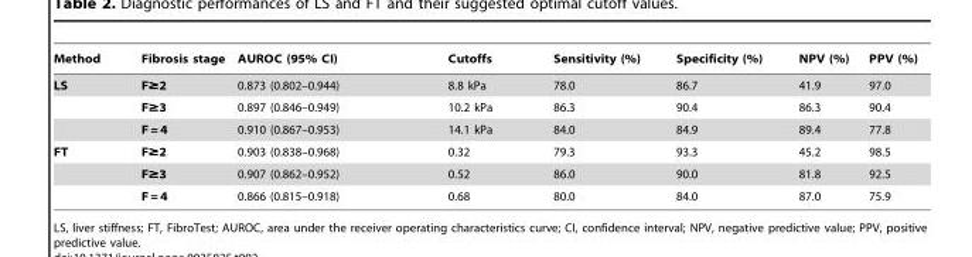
<table><thead><tr><td>Method</td><td>Fibrosis stage</td><td>AUROC (95% CI)</td><td>Cutoffs</td><td>Sensitivity (%)</td><td>Specificity (%)</td><td>NPV (%)</td><td>PPV (%)</td></tr></thead><tbody><tr><td rowspan="3">LS</td><td>F≥2</td><td>0.873 (0.802–0.944)</td><td>8.8 kPa</td><td>78.0</td><td>86.7</td><td>41.9</td><td>97.0</td></tr><tr><td>F≥3</td><td>0.897 (0.846–0.949)</td><td>10.2 kPa</td><td>86.3</td><td>90.4</td><td>86.3</td><td>90.4</td></tr><tr><td>F = 4</td><td>0.910 (0.867–0.953)</td><td>14.1 kPa</td><td>84.0</td><td>84.9</td><td>89.4</td><td>77.8</td></tr><tr><td rowspan="3">FT</td><td>F≥2</td><td>0.903 (0.838–0.968)</td><td>0.32</td><td>79.3</td><td>93.3</td><td>45.2</td><td>98.5</td></tr><tr><td>F≥3</td><td>0.907 (0.862–0.952)</td><td>0.52</td><td>86.0</td><td>90.0</td><td>81.8</td><td>92.5</td></tr><tr><td>F = 4</td><td>0.866 (0.815–0.918)</td><td>0.68</td><td>80.0</td><td>84.0</td><td>87.0</td><td>75.9</td></tr></tbody></table>